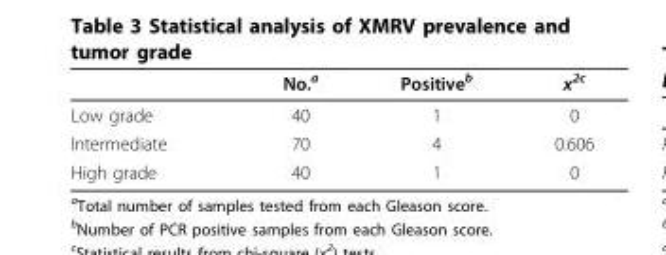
<table><thead><tr><td></td><td>No.<sup>a</sup></td><td>Positive<sup>b</sup></td><td>x<sup>2c</sup></td></tr></thead><tbody><tr><td>Low grade</td><td>40</td><td>1</td><td>0</td></tr><tr><td>Intermediate</td><td>70</td><td>4</td><td>0.606</td></tr><tr><td>High grade</td><td>40</td><td>1</td><td>0</td></tr></tbody></table>